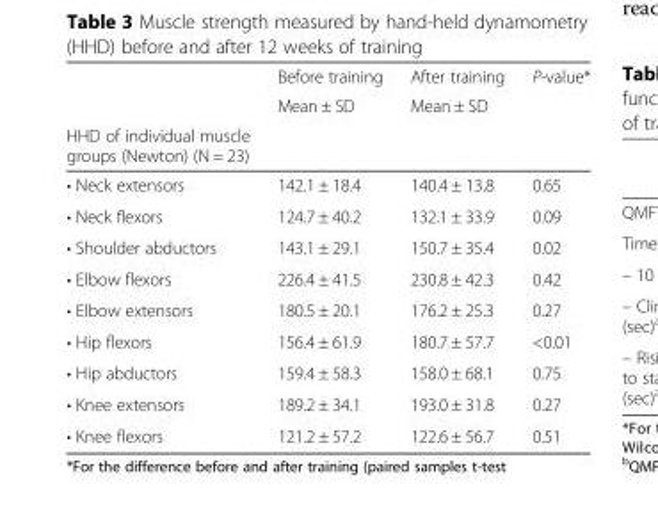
<table><thead><tr><td rowspan="3">HHD of individual muscle groups (Newton) (N = 23)</td><td rowspan="3">Before training Mean ± SD</td><td rowspan="3">After training Mean ± SD</td><td rowspan="3">P-value*</td></tr><tr></tr><tr></tr></thead><tbody><tr><td>• Neck extensors</td><td>142.1 ± 18.4</td><td>140.4 ± 13.8</td><td>0.65</td></tr><tr><td>• Neck flexors</td><td>124.7 ± 40.2</td><td>132.1 ± 33.9</td><td>0.09</td></tr><tr><td>• Shoulder abductors</td><td>143.1 ± 29.1</td><td>150.7 ± 35.4</td><td>0.02</td></tr><tr><td>• Elbow flexors</td><td>226.4 ± 41.5</td><td>230.8 ± 42.3</td><td>0.42</td></tr><tr><td>• Elbow extensors</td><td>180.5 ± 20.1</td><td>176.2 ± 25.3</td><td>0.27</td></tr><tr><td>• Hip flexors</td><td>156.4 ± 61.9</td><td>180.7 ± 57.7</td><td>&lt;0.01</td></tr><tr><td>• Hip abductors</td><td>159.4 ± 58.3</td><td>158.0 ± 68.1</td><td>0.75</td></tr><tr><td>• Knee extensors</td><td>189.2 ± 34.1</td><td>193.0 ± 31.8</td><td>0.27</td></tr><tr><td>• Knee flexors</td><td>121.2 ± 57.2</td><td>122.6 ± 56.7</td><td>0.51</td></tr></tbody></table>